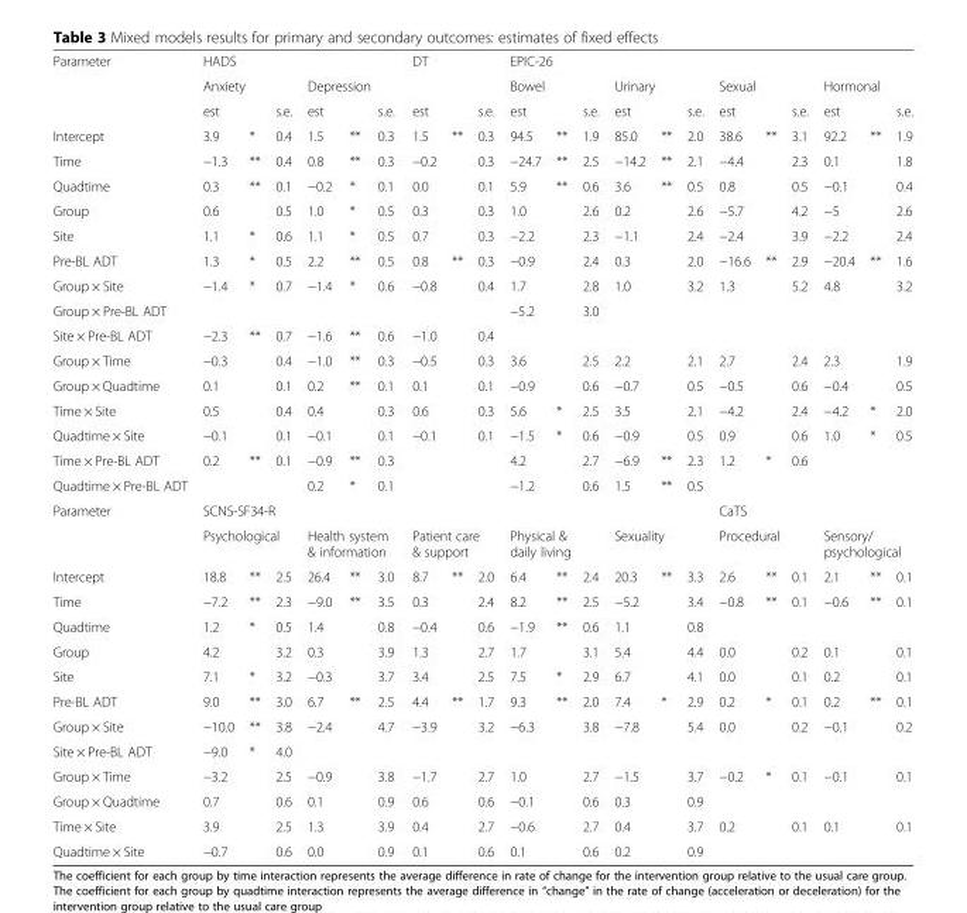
<table><tbody><tr><td rowspan="3">Parameter</td><td colspan="6">HADS</td><td colspan="3">DT</td><td colspan="12">EPIC-26</td></tr><tr><td colspan="3">Anxiety</td><td colspan="3">Depression</td><td colspan="3"></td><td colspan="3">Bowel</td><td colspan="3">Urinary</td><td colspan="3">Sexual</td><td colspan="3">Hormonal</td></tr><tr><td>est</td><td></td><td>s.e.</td><td>est</td><td></td><td>s.e.</td><td>est</td><td></td><td>s.e.</td><td>est</td><td></td><td>s.e.</td><td>est</td><td></td><td>s.e.</td><td>est</td><td></td><td>s.e.</td><td>est</td><td></td><td>s.e.</td></tr><tr><td>Intercept</td><td>3.9</td><td>*</td><td>0.4</td><td>1.5</td><td>**</td><td>0.3</td><td>1.5</td><td>**</td><td>0.3</td><td>94.5</td><td>**</td><td>1.9</td><td>85.0</td><td>**</td><td>2.0</td><td>38.6</td><td>**</td><td>3.1</td><td>92.2</td><td>**</td><td>1.9</td></tr><tr><td>Time</td><td>−1.3</td><td>**</td><td>0.4</td><td>0.8</td><td>**</td><td>0.3</td><td>−0.2</td><td></td><td>0.3</td><td>−24.7</td><td>**</td><td>2.5</td><td>−14.2</td><td>**</td><td>2.1</td><td>−4.4</td><td></td><td>2.3</td><td>0.1</td><td></td><td>1.8</td></tr><tr><td>Quadtime</td><td>0.3</td><td>**</td><td>0.1</td><td>−0.2</td><td>*</td><td>0.1</td><td>0.0</td><td></td><td>0.1</td><td>5.9</td><td>**</td><td>0.6</td><td>3.6</td><td>**</td><td>0.5</td><td>0.8</td><td></td><td>0.5</td><td>−0.1</td><td></td><td>0.4</td></tr><tr><td>Group</td><td>0.6</td><td></td><td>0.5</td><td>1.0</td><td>*</td><td>0.5</td><td>0.3</td><td></td><td>0.3</td><td>1.0</td><td></td><td>2.6</td><td>0.2</td><td></td><td>2.6</td><td>−5.7</td><td></td><td>4.2</td><td>−5</td><td></td><td>2.6</td></tr><tr><td>Site</td><td>1.1</td><td>*</td><td>0.6</td><td>1.1</td><td>*</td><td>0.5</td><td>0.7</td><td></td><td>0.3</td><td>−2.2</td><td></td><td>2.3</td><td>−1.1</td><td></td><td>2.4</td><td>−2.4</td><td></td><td>3.9</td><td>−2.2</td><td></td><td>2.4</td></tr><tr><td>Pre-BL ADT</td><td>1.3</td><td>*</td><td>0.5</td><td>2.2</td><td>**</td><td>0.5</td><td>0.8</td><td>**</td><td>0.3</td><td>−0.9</td><td></td><td>2.4</td><td>0.3</td><td></td><td>2.0</td><td>−16.6</td><td>**</td><td>2.9</td><td>−20.4</td><td>**</td><td>1.6</td></tr><tr><td>Group × Site</td><td>−1.4</td><td>*</td><td>0.7</td><td>−1.4</td><td>*</td><td>0.6</td><td>−0.8</td><td></td><td>0.4</td><td>1.7</td><td></td><td>2.8</td><td>1.0</td><td></td><td>3.2</td><td>1.3</td><td></td><td>5.2</td><td>4.8</td><td></td><td>3.2</td></tr><tr><td>Group × Pre-BL ADT</td><td></td><td></td><td></td><td></td><td></td><td></td><td></td><td></td><td></td><td>−5.2</td><td></td><td>3.0</td><td></td><td></td><td></td><td></td><td></td><td></td><td></td><td></td><td></td></tr><tr><td>Site × Pre-BL ADT</td><td>−2.3</td><td>**</td><td>0.7</td><td>−1.6</td><td>**</td><td>0.6</td><td>−1.0</td><td></td><td>0.4</td><td></td><td></td><td></td><td></td><td></td><td></td><td></td><td></td><td></td><td></td><td></td><td></td></tr><tr><td>Group × Time</td><td>−0.3</td><td></td><td>0.4</td><td>−1.0</td><td>**</td><td>0.3</td><td>−0.5</td><td></td><td>0.3</td><td>3.6</td><td></td><td>2.5</td><td>2.2</td><td></td><td>2.1</td><td>2.7</td><td></td><td>2.4</td><td>2.3</td><td></td><td>1.9</td></tr><tr><td>Group × Quadtime</td><td>0.1</td><td></td><td>0.1</td><td>0.2</td><td>**</td><td>0.1</td><td>0.1</td><td></td><td>0.1</td><td>−0.9</td><td></td><td>0.6</td><td>−0.7</td><td></td><td>0.5</td><td>−0.5</td><td></td><td>0.6</td><td>−0.4</td><td></td><td>0.5</td></tr><tr><td>Time × Site</td><td>0.5</td><td></td><td>0.4</td><td>0.4</td><td></td><td>0.3</td><td>0.6</td><td></td><td>0.3</td><td>5.6</td><td>*</td><td>2.5</td><td>3.5</td><td></td><td>2.1</td><td>−4.2</td><td></td><td>2.4</td><td>−4.2</td><td>*</td><td>2.0</td></tr><tr><td>Quadtime × Site</td><td>−0.1</td><td></td><td>0.1</td><td>−0.1</td><td></td><td>0.1</td><td>−0.1</td><td></td><td>0.1</td><td>−1.5</td><td>*</td><td>0.6</td><td>−0.9</td><td></td><td>0.5</td><td>0.9</td><td></td><td>0.6</td><td>1.0</td><td>*</td><td>0.5</td></tr><tr><td>Time × Pre-BL ADT</td><td>0.2</td><td>**</td><td>0.1</td><td>−0.9</td><td>**</td><td>0.3</td><td></td><td></td><td></td><td>4.2</td><td></td><td>2.7</td><td>−6.9</td><td>**</td><td>2.3</td><td>1.2</td><td>*</td><td>0.6</td><td></td><td></td><td></td></tr><tr><td>Quadtime × Pre-BL ADT</td><td></td><td></td><td></td><td>0.2</td><td>*</td><td>0.1</td><td></td><td></td><td></td><td>−1.2</td><td></td><td>0.6</td><td>1.5</td><td>**</td><td>0.5</td><td></td><td></td><td></td><td></td><td></td><td></td></tr><tr><td rowspan="2">Parameter</td><td colspan="15">SCNS-SF34-R</td><td colspan="6">CaTS</td></tr><tr><td colspan="3">Psychological</td><td colspan="3">Health system &amp; information</td><td colspan="3">Patient care &amp; support</td><td colspan="3">Physical &amp; daily living</td><td colspan="3">Sexuality</td><td colspan="3">Procedural</td><td colspan="3">Sensory/ psychological</td></tr><tr><td>Intercept</td><td>18.8</td><td>**</td><td>2.5</td><td>26.4</td><td>**</td><td>3.0</td><td>8.7</td><td>**</td><td>2.0</td><td>6.4</td><td>**</td><td>2.4</td><td>20.3</td><td>**</td><td>3.3</td><td>2.6</td><td>**</td><td>0.1</td><td>2.1</td><td>**</td><td>0.1</td></tr><tr><td>Time</td><td>−7.2</td><td>**</td><td>2.3</td><td>−9.0</td><td>**</td><td>3.5</td><td>0.3</td><td></td><td>2.4</td><td>8.2</td><td>**</td><td>2.5</td><td>−5.2</td><td></td><td>3.4</td><td>−0.8</td><td>**</td><td>0.1</td><td>−0.6</td><td>**</td><td>0.1</td></tr><tr><td>Quadtime</td><td>1.2</td><td>*</td><td>0.5</td><td>1.4</td><td></td><td>0.8</td><td>−0.4</td><td></td><td>0.6</td><td>−1.9</td><td>**</td><td>0.6</td><td>1.1</td><td></td><td>0.8</td><td></td><td></td><td></td><td></td><td></td><td></td></tr><tr><td>Group</td><td>4.2</td><td></td><td>3.2</td><td>0.3</td><td></td><td>3.9</td><td>1.3</td><td></td><td>2.7</td><td>1.7</td><td></td><td>3.1</td><td>5.4</td><td></td><td>4.4</td><td>0.0</td><td></td><td>0.2</td><td>0.1</td><td></td><td>0.1</td></tr><tr><td>Site</td><td>7.1</td><td>*</td><td>3.2</td><td>−0.3</td><td></td><td>3.7</td><td>3.4</td><td></td><td>2.5</td><td>7.5</td><td>*</td><td>2.9</td><td>6.7</td><td></td><td>4.1</td><td>0.0</td><td></td><td>0.1</td><td>0.2</td><td></td><td>0.1</td></tr><tr><td>Pre-BL ADT</td><td>9.0</td><td>**</td><td>3.0</td><td>6.7</td><td>**</td><td>2.5</td><td>4.4</td><td>**</td><td>1.7</td><td>9.3</td><td>**</td><td>2.0</td><td>7.4</td><td>*</td><td>2.9</td><td>0.2</td><td>*</td><td>0.1</td><td>0.2</td><td>**</td><td>0.1</td></tr><tr><td>Group × Site</td><td>−10.0</td><td>**</td><td>3.8</td><td>−2.4</td><td></td><td>4.7</td><td>−3.9</td><td></td><td>3.2</td><td>−6.3</td><td></td><td>3.8</td><td>−7.8</td><td></td><td>5.4</td><td>0.0</td><td></td><td>0.2</td><td>−0.1</td><td></td><td>0.2</td></tr><tr><td>Site × Pre-BL ADT</td><td>−9.0</td><td>*</td><td>4.0</td><td></td><td></td><td></td><td></td><td></td><td></td><td></td><td></td><td></td><td></td><td></td><td></td><td></td><td></td><td></td><td></td><td></td><td></td></tr><tr><td>Group × Time</td><td>−3.2</td><td></td><td>2.5</td><td>−0.9</td><td></td><td>3.8</td><td>−1.7</td><td></td><td>2.7</td><td>1.0</td><td></td><td>2.7</td><td>−1.5</td><td></td><td>3.7</td><td>−0.2</td><td>*</td><td>0.1</td><td>−0.1</td><td></td><td>0.1</td></tr><tr><td>Group × Quadtime</td><td>0.7</td><td></td><td>0.6</td><td>0.1</td><td></td><td>0.9</td><td>0.6</td><td></td><td>0.6</td><td>−0.1</td><td></td><td>0.6</td><td>0.3</td><td></td><td>0.9</td><td></td><td></td><td></td><td></td><td></td><td></td></tr><tr><td>Time × Site</td><td>3.9</td><td></td><td>2.5</td><td>1.3</td><td></td><td>3.9</td><td>0.4</td><td></td><td>2.7</td><td>−0.6</td><td></td><td>2.7</td><td>0.4</td><td></td><td>3.7</td><td>0.2</td><td></td><td>0.1</td><td>0.1</td><td></td><td>0.1</td></tr><tr><td>Quadtime × Site</td><td>−0.7</td><td></td><td>0.6</td><td>0.0</td><td></td><td>0.9</td><td>0.1</td><td></td><td>0.6</td><td>0.1</td><td></td><td>0.6</td><td>0.2</td><td></td><td>0.9</td><td></td><td></td><td></td><td></td><td></td><td></td></tr></tbody></table>